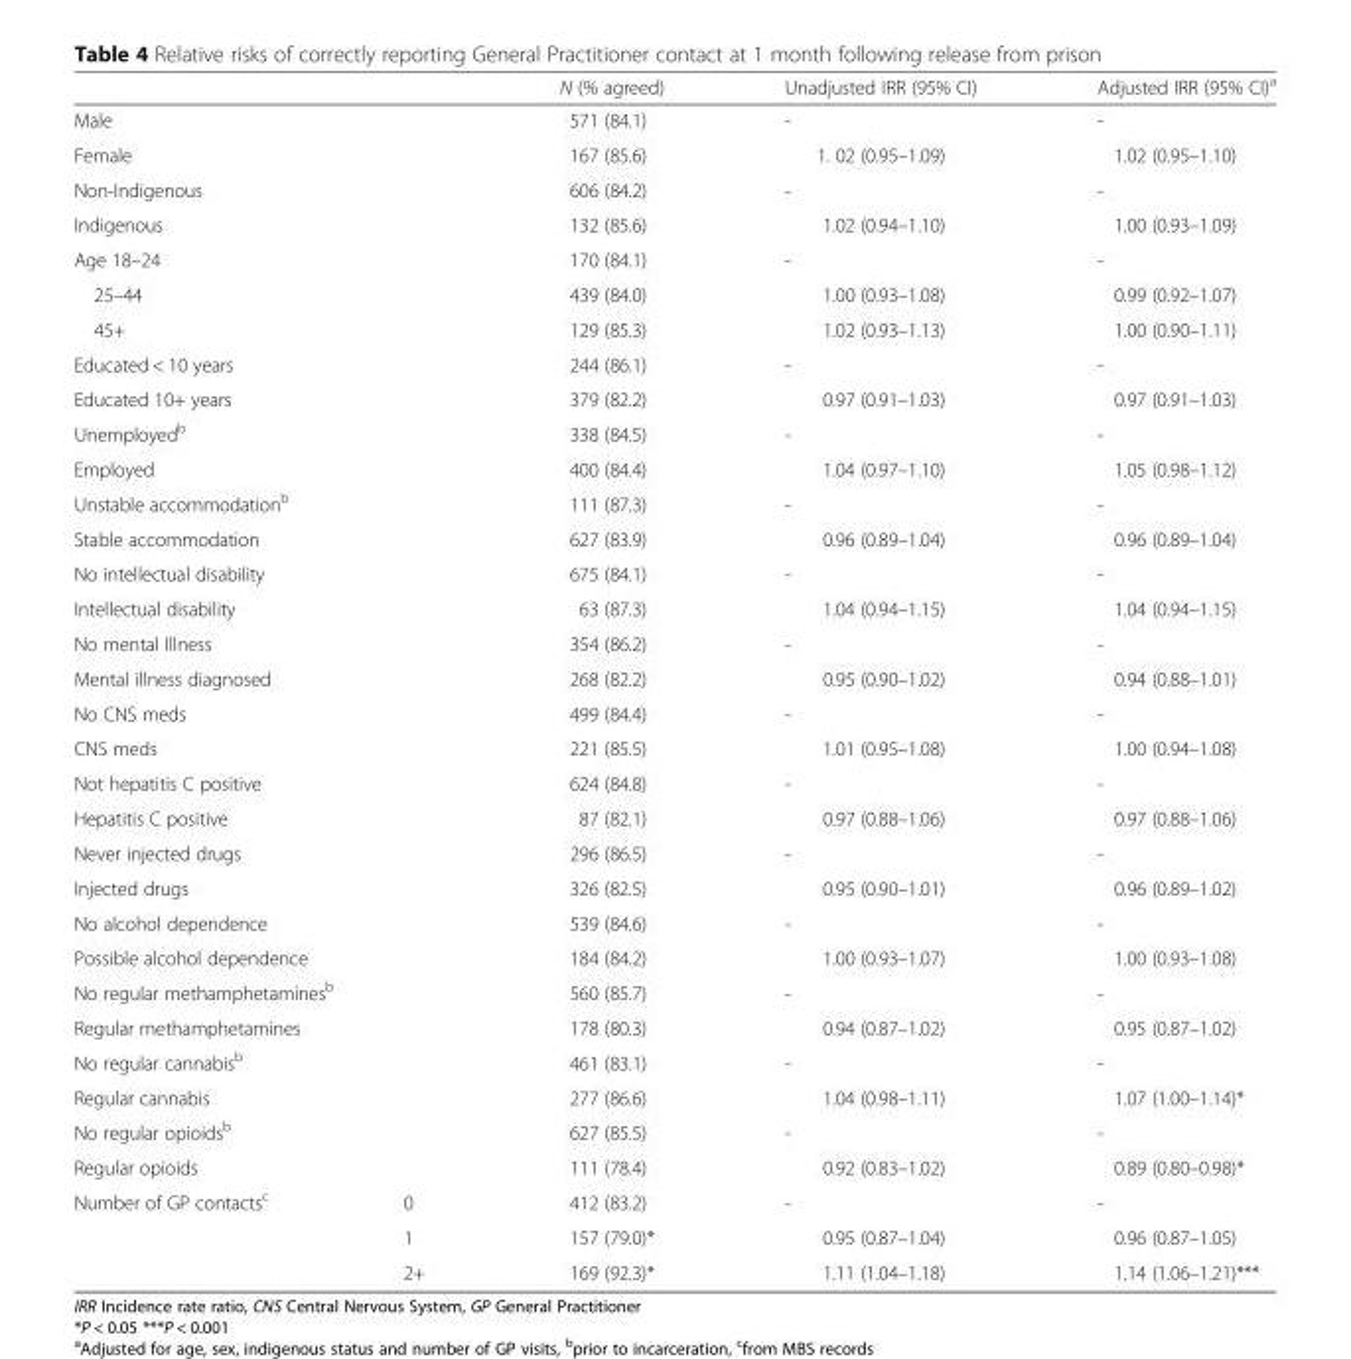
<table><thead><tr><td></td><td></td><td>N (% agreed)</td><td>Unadjusted IRR (95% CI)</td><td>Adjusted IRR (95% CI)<sup>a</sup></td></tr></thead><tbody><tr><td colspan="2">Male</td><td>571 (84.1)</td><td>-</td><td>-</td></tr><tr><td colspan="2">Female</td><td>167 (85.6)</td><td>1. 02 (0.95–1.09)</td><td>1.02 (0.95–1.10)</td></tr><tr><td colspan="2">Non-Indigenous</td><td>606 (84.2)</td><td>-</td><td>-</td></tr><tr><td colspan="2">Indigenous</td><td>132 (85.6)</td><td>1.02 (0.94–1.10)</td><td>1.00 (0.93–1.09)</td></tr><tr><td colspan="2">Age 18–24</td><td>170 (84.1)</td><td>-</td><td>-</td></tr><tr><td colspan="2">25–44</td><td>439 (84.0)</td><td>1.00 (0.93–1.08)</td><td>0.99 (0.92–1.07)</td></tr><tr><td colspan="2">45+</td><td>129 (85.3)</td><td>1.02 (0.93–1.13)</td><td>1.00 (0.90–1.11)</td></tr><tr><td colspan="2">Educated &lt; 10 years</td><td>244 (86.1)</td><td>-</td><td>-</td></tr><tr><td colspan="2">Educated 10+ years</td><td>379 (82.2)</td><td>0.97 (0.91–1.03)</td><td>0.97 (0.91–1.03)</td></tr><tr><td colspan="2">Unemployed<sup>b</sup></td><td>338 (84.5)</td><td>-</td><td>-</td></tr><tr><td colspan="2">Employed</td><td>400 (84.4)</td><td>1.04 (0.97–1.10)</td><td>1.05 (0.98–1.12)</td></tr><tr><td colspan="2">Unstable accommodation<sup>b</sup></td><td>111 (87.3)</td><td>-</td><td>-</td></tr><tr><td colspan="2">Stable accommodation</td><td>627 (83.9)</td><td>0.96 (0.89–1.04)</td><td>0.96 (0.89–1.04)</td></tr><tr><td colspan="2">No intellectual disability</td><td>675 (84.1)</td><td>-</td><td>-</td></tr><tr><td colspan="2">Intellectual disability</td><td>63 (87.3)</td><td>1.04 (0.94–1.15)</td><td>1.04 (0.94–1.15)</td></tr><tr><td colspan="2">No mental Illness</td><td>354 (86.2)</td><td>-</td><td>-</td></tr><tr><td colspan="2">Mental illness diagnosed</td><td>268 (82.2)</td><td>0.95 (0.90–1.02)</td><td>0.94 (0.88–1.01)</td></tr><tr><td colspan="2">No CNS meds</td><td>499 (84.4)</td><td>-</td><td>-</td></tr><tr><td colspan="2">CNS meds</td><td>221 (85.5)</td><td>1.01 (0.95–1.08)</td><td>1.00 (0.94–1.08)</td></tr><tr><td colspan="2">Not hepatitis C positive</td><td>624 (84.8)</td><td>-</td><td>-</td></tr><tr><td colspan="2">Hepatitis C positive</td><td>87 (82.1)</td><td>0.97 (0.88–1.06)</td><td>0.97 (0.88–1.06)</td></tr><tr><td colspan="2">Never injected drugs</td><td>296 (86.5)</td><td>-</td><td>-</td></tr><tr><td colspan="2">Injected drugs</td><td>326 (82.5)</td><td>0.95 (0.90–1.01)</td><td>0.96 (0.89–1.02)</td></tr><tr><td colspan="2">No alcohol dependence</td><td>539 (84.6)</td><td>-</td><td>-</td></tr><tr><td colspan="2">Possible alcohol dependence</td><td>184 (84.2)</td><td>1.00 (0.93–1.07)</td><td>1.00 (0.93–1.08)</td></tr><tr><td colspan="2">No regular methamphetamines<sup>b</sup></td><td>560 (85.7)</td><td>-</td><td>-</td></tr><tr><td colspan="2">Regular methamphetamines</td><td>178 (80.3)</td><td>0.94 (0.87–1.02)</td><td>0.95 (0.87–1.02)</td></tr><tr><td colspan="2">No regular cannabis<sup>b</sup></td><td>461 (83.1)</td><td>-</td><td>-</td></tr><tr><td colspan="2">Regular cannabis</td><td>277 (86.6)</td><td>1.04 (0.98–1.11)</td><td>1.07 (1.00–1.14)*</td></tr><tr><td colspan="2">No regular opioids<sup>b</sup></td><td>627 (85.5)</td><td>-</td><td>-</td></tr><tr><td colspan="2">Regular opioids</td><td>111 (78.4)</td><td>0.92 (0.83–1.02)</td><td>0.89 (0.80–0.98)*</td></tr><tr><td rowspan="3">Number of GP contacts<sup>c</sup></td><td>0</td><td>412 (83.2)</td><td>-</td><td>-</td></tr><tr><td>1</td><td>157 (79.0)*</td><td>0.95 (0.87–1.04)</td><td>0.96 (0.87–1.05)</td></tr><tr><td>2+</td><td>169 (92.3)*</td><td>1.11 (1.04–1.18)</td><td>1.14 (1.06–1.21)***</td></tr></tbody></table>